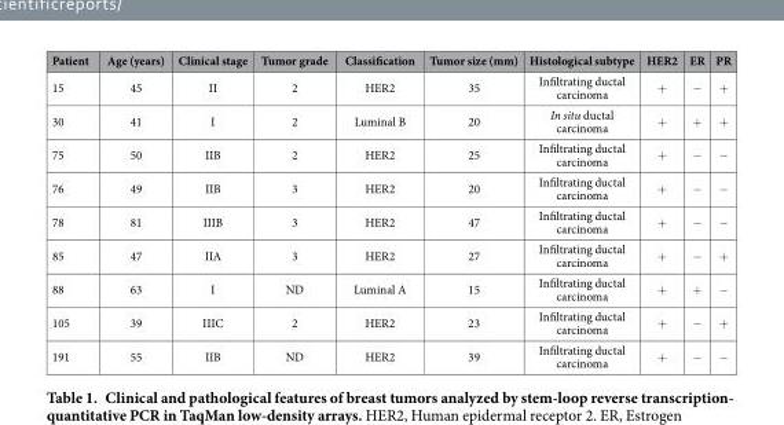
<table><thead><tr><td>Patient</td><td>Age (years)</td><td>Clinical stage</td><td>Tumor grade</td><td>Classification</td><td>Tumor size (mm)</td><td>Histological subtype</td><td>HER2</td><td>ER</td><td>PR</td></tr></thead><tbody><tr><td>15</td><td>45</td><td>II</td><td>2</td><td>HER2</td><td>35</td><td>Infiltrating ductal carcinoma</td><td>+</td><td>−</td><td>+</td></tr><tr><td>30</td><td>41</td><td>I</td><td>2</td><td>Luminal B</td><td>20</td><td>In situ ductal carcinoma</td><td>+</td><td>+</td><td>+</td></tr><tr><td>75</td><td>50</td><td>IIB</td><td>2</td><td>HER2</td><td>25</td><td>Infiltrating ductal carcinoma</td><td>+</td><td>−</td><td>−</td></tr><tr><td>76</td><td>49</td><td>IIB</td><td>3</td><td>HER2</td><td>20</td><td>Infiltrating ductal carcinoma</td><td>+</td><td>−</td><td>−</td></tr><tr><td>78</td><td>81</td><td>IIIB</td><td>3</td><td>HER2</td><td>47</td><td>Infiltrating ductal carcinoma</td><td>+</td><td>−</td><td>−</td></tr><tr><td>85</td><td>47</td><td>IIA</td><td>3</td><td>HER2</td><td>27</td><td>Infiltrating ductal carcinoma</td><td>+</td><td>−</td><td>+</td></tr><tr><td>88</td><td>63</td><td>I</td><td>ND</td><td>Luminal A</td><td>15</td><td>Infiltrating ductal carcinoma</td><td>+</td><td>+</td><td>−</td></tr><tr><td>105</td><td>39</td><td>IIIC</td><td>2</td><td>HER2</td><td>23</td><td>Infiltrating ductal carcinoma</td><td>+</td><td>−</td><td>+</td></tr><tr><td>191</td><td>55</td><td>IIB</td><td>ND</td><td>HER2</td><td>39</td><td>Infiltrating ductal carcinoma</td><td>+</td><td>−</td><td>−</td></tr></tbody></table>